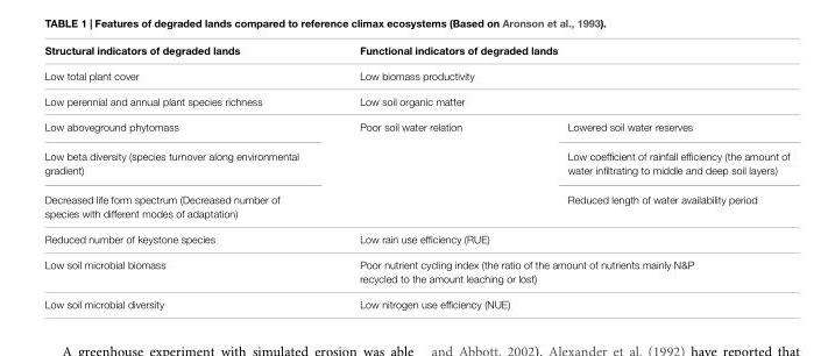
<table><thead><tr><td>Structural indicators of degraded lands</td><td>Functional indicators of degraded lands</td><td></td></tr></thead><tbody><tr><td>Low total plant cover</td><td>Low biomass productivity</td><td></td></tr><tr><td>Low perennial and annual plant species richness</td><td>Low soil organic matter</td><td></td></tr><tr><td>Low aboveground phytomass</td><td>Poor soil water relation</td><td>Lowered soil water reserves</td></tr><tr><td>Low beta diversity (species turnover along environmental gradient)</td><td></td><td>Low coefficient of rainfall efficiency (the amount of water infiltrating to middle and deep soil layers)</td></tr><tr><td>Decreased life form spectrum (Decreased number of species with different modes of adaptation)</td><td></td><td>Reduced length of water availability period</td></tr><tr><td>Reduced number of keystone species</td><td>Low rain use efficiency (RUE)</td><td></td></tr><tr><td>Low soil microbial biomass</td><td colspan="2">Poor nutrient cycling index (the ratio of the amount of nutrients mainly N&amp;P recycled to the amount leaching or lost)</td></tr><tr><td>Low soil microbial diversity</td><td>Low nitrogen use efficiency (NUE)</td><td></td></tr></tbody></table>